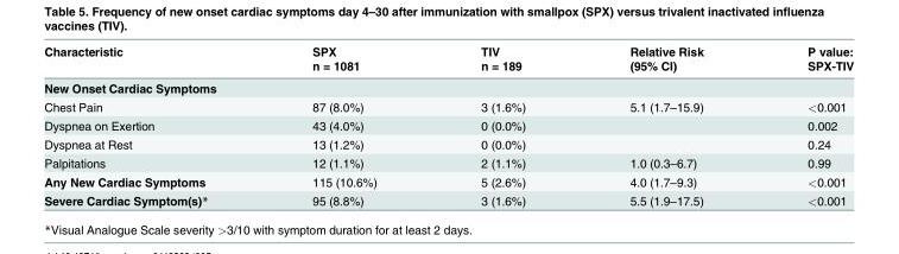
<table><thead><tr><td rowspan="2">Characteristic</td><td rowspan="2">SPX n = 1081</td><td rowspan="2">TIV n = 189</td><td rowspan="2">Relative Risk (95% CI)</td><td rowspan="2">P value: SPX-TIV</td></tr><tr></tr></thead><tbody><tr><td colspan="5">New Onset Cardiac Symptoms</td></tr><tr><td>Chest Pain</td><td>87 (8.0%)</td><td>3 (1.6%)</td><td>5.1 (1.7–15.9)</td><td>&lt;0.001</td></tr><tr><td>Dyspnea on Exertion</td><td>43 (4.0%)</td><td>0 (0.0%)</td><td></td><td>0.002</td></tr><tr><td>Dyspnea at Rest</td><td>13 (1.2%)</td><td>0 (0.0%)</td><td></td><td>0.24</td></tr><tr><td>Palpitations</td><td>12 (1.1%)</td><td>2 (1.1%)</td><td>1.0 (0.3–6.7)</td><td>0.99</td></tr><tr><td>Any New Cardiac Symptoms</td><td>115 (10.6%)</td><td>5 (2.6%)</td><td>4.0 (1.7–9.3)</td><td>&lt;0.001</td></tr><tr><td>Severe Cardiac Symptom(s)*</td><td>95 (8.8%)</td><td>3 (1.6%)</td><td>5.5 (1.9–17.5)</td><td>&lt;0.001</td></tr></tbody></table>